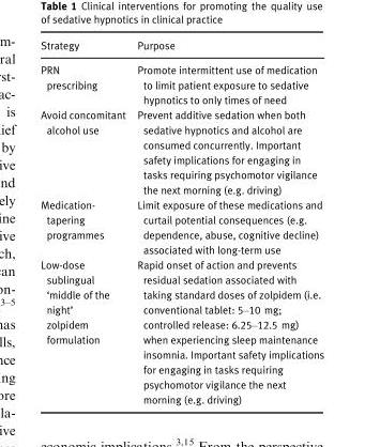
<table><thead><tr><td>Strategy</td><td>Purpose</td></tr></thead><tbody><tr><td>PRN prescribing</td><td>Promote intermittent use of medication to limit patient exposure to sedative hypnotics to only times of need</td></tr><tr><td>Avoid concomitant alcohol use</td><td>Prevent additive sedation when both sedative hypnotics and alcohol are consumed concurrently. Important safety implications for engaging in tasks requiring psychomotor vigilance the next morning (e.g. driving)</td></tr><tr><td>Medication- tapering programmes</td><td>Limit exposure of these medications and curtail potential consequences (e.g. dependence, abuse, cognitive decline) associated with long-term use</td></tr><tr><td>Low-dose sublingual ‘middle of the night’ zolpidem formulation</td><td>Rapid onset of action and prevents residual sedation associated with taking standard doses of zolpidem (i.e. conventional tablet: 5–10 mg; controlled release: 6.25–12.5 mg) when experiencing sleep maintenance insomnia. Important safety implications for engaging in tasks requiring psychomotor vigilance the next morning (e.g. driving)</td></tr></tbody></table>